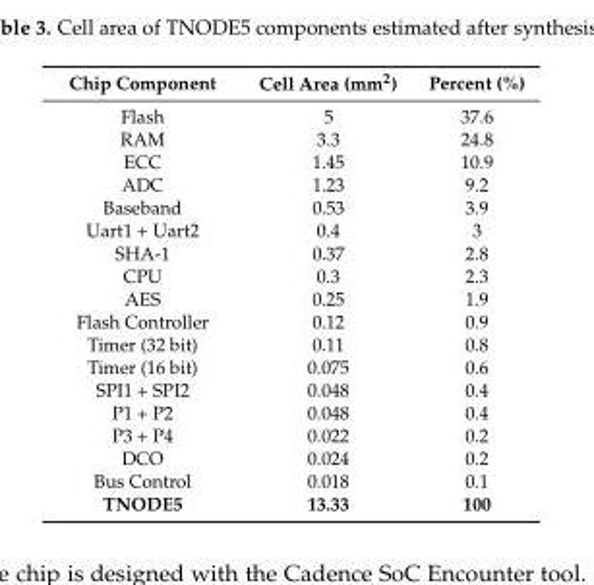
<table><thead><tr><td>Chip Component</td><td>Cell Area (mm<sup>2</sup>)</td><td>Percent (%)</td></tr></thead><tbody><tr><td>Flash</td><td>5</td><td>37.6</td></tr><tr><td>RAM</td><td>3.3</td><td>24.8</td></tr><tr><td>ECC</td><td>1.45</td><td>10.9</td></tr><tr><td>ADC</td><td>1.23</td><td>9.2</td></tr><tr><td>Baseband</td><td>0.53</td><td>3.9</td></tr><tr><td>Uart1 + Uart2</td><td>0.4</td><td>3</td></tr><tr><td>SHA-1</td><td>0.37</td><td>2.8</td></tr><tr><td>CPU</td><td>0.3</td><td>2.3</td></tr><tr><td>AES</td><td>0.25</td><td>1.9</td></tr><tr><td>Flash Controller</td><td>0.12</td><td>0.9</td></tr><tr><td>Timer (32 bit)</td><td>0.11</td><td>0.8</td></tr><tr><td>Timer (16 bit)</td><td>0.075</td><td>0.6</td></tr><tr><td>SPI1 + SPI2</td><td>0.048</td><td>0.4</td></tr><tr><td>P1 + P2</td><td>0.048</td><td>0.4</td></tr><tr><td>P3 + P4</td><td>0.022</td><td>0.2</td></tr><tr><td>DCO</td><td>0.024</td><td>0.2</td></tr><tr><td>Bus Control</td><td>0.018</td><td>0.1</td></tr><tr><td>TNODE5</td><td>13.33</td><td>100</td></tr></tbody></table>